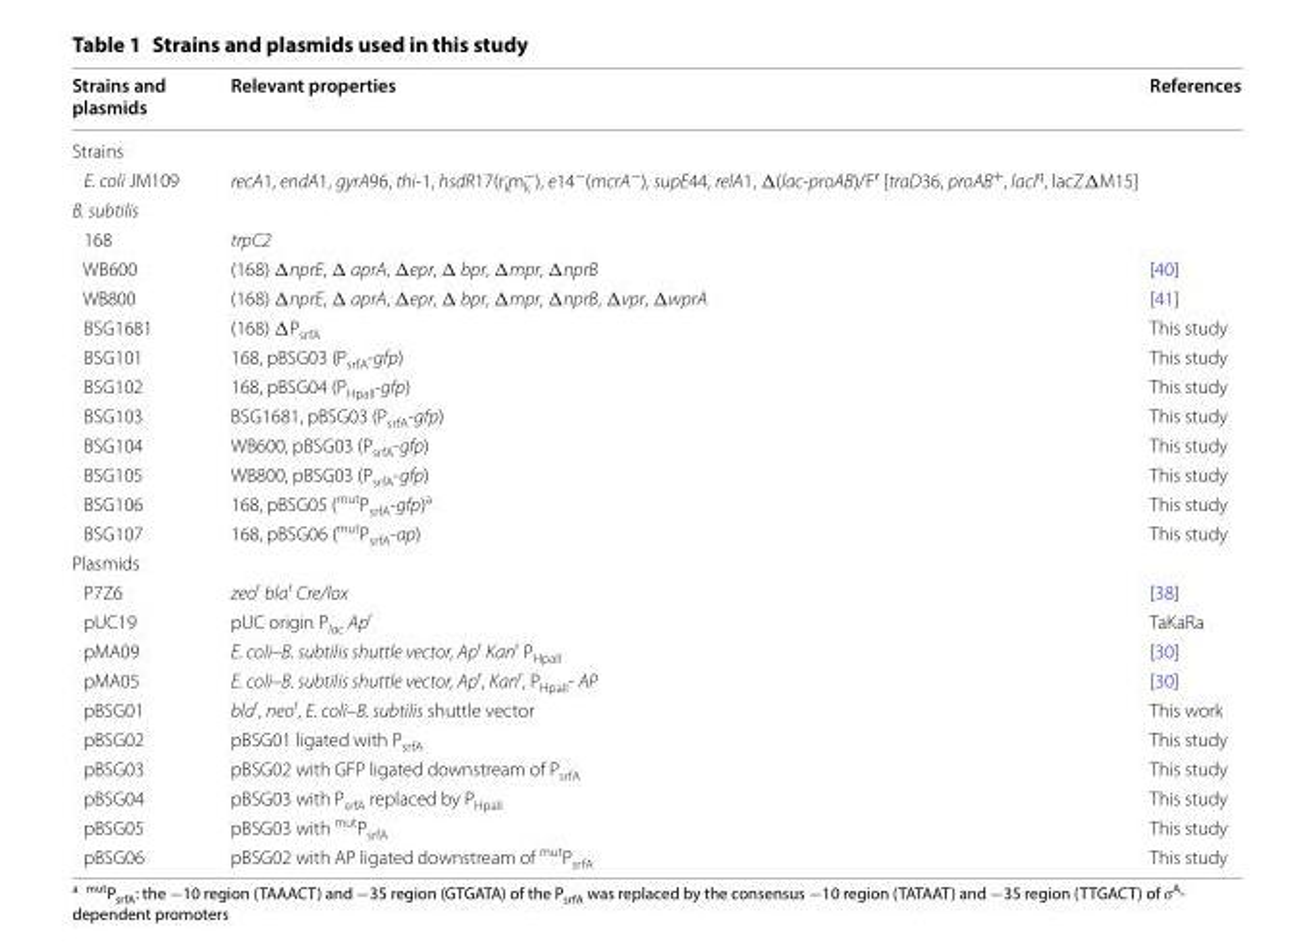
<table><thead><tr><td>Strains and plasmids</td><td>Relevant properties</td><td>References</td></tr></thead><tbody><tr><td colspan="3">Strains</td></tr><tr><td>E. coli JM109</td><td>recA1, endA1, gyrA96, thi-1, hsdR17(r<sub>k</sub> <sup>-</sup>m<sub>k</sub> <sup>−</sup>), e14<sup>−</sup>(mcrA<sup>−</sup>), supE44, relA1, Δ(lac-proAB)/F′ [traD36, proAB<sup>+</sup>, lacI<sup>q</sup>, lacZΔM15]</td><td></td></tr><tr><td colspan="3">B. subtilis</td></tr><tr><td>168</td><td>trpC2</td><td></td></tr><tr><td>WB600</td><td>(168) ΔnprE, Δ aprA, Δepr, Δ bpr, Δmpr, ΔnprB</td><td>[40]</td></tr><tr><td>WB800</td><td>(168) ΔnprE, Δ aprA, Δepr, Δ bpr, Δmpr, ΔnprB, Δvpr, ΔwprA</td><td>[41]</td></tr><tr><td>BSG1681</td><td>(168) ΔP<sub>srfA</sub></td><td>This study</td></tr><tr><td>BSG101</td><td>168, pBSG03 (P<sub>srfA</sub>-gfp)</td><td>This study</td></tr><tr><td>BSG102</td><td>168, pBSG04 (P<sub>HpaII</sub>-gfp)</td><td>This study</td></tr><tr><td>BSG103</td><td>BSG1681, pBSG03 (P<sub>srfA</sub>-gfp)</td><td>This study</td></tr><tr><td>BSG104</td><td>WB600, pBSG03 (P<sub>srfA</sub>-gfp)</td><td>This study</td></tr><tr><td>BSG105</td><td>WB800, pBSG03 (P<sub>srfA</sub>-gfp)</td><td>This study</td></tr><tr><td>BSG106</td><td>168, pBSG05 (<sup>mut</sup>P<sub>srfA</sub>-gfp)<sup>a</sup></td><td>This study</td></tr><tr><td>BSG107</td><td>168, pBSG06 (<sup>mut</sup>P<sub>srfA</sub>-ap)</td><td>This study</td></tr><tr><td colspan="3">Plasmids</td></tr><tr><td>P7Z6</td><td>zeo<sup>r</sup> bla<sup>r</sup> Cre/lox</td><td>[38]</td></tr><tr><td>pUC19</td><td>pUC origin P<sub>lac</sub> Ap<sup>r</sup></td><td>TaKaRa</td></tr><tr><td>pMA09</td><td>E. coli–B. subtilis shuttle vector, Ap<sup>r</sup> Kan<sup>r</sup> P<sub>HpaII</sub></td><td>[30]</td></tr><tr><td>pMA05</td><td>E. coli–B. subtilis shuttle vector, Ap<sup>r</sup>, Kan<sup>r</sup>, P<sub>HpaII</sub>- AP</td><td>[30]</td></tr><tr><td>pBSG01</td><td>bla<sup>r</sup>, neo<sup>r</sup>, E. coli–B. subtilis shuttle vector</td><td>This work</td></tr><tr><td>pBSG02</td><td>pBSG01 ligated with P<sub>srfA</sub></td><td>This study</td></tr><tr><td>pBSG03</td><td>pBSG02 with GFP ligated downstream of P<sub>srfA</sub></td><td>This study</td></tr><tr><td>pBSG04</td><td>pBSG03 with P<sub>srfA</sub> replaced by P<sub>HpaII</sub></td><td>This study</td></tr><tr><td>pBSG05</td><td>pBSG03 with <sup>mut</sup>P<sub>srfA</sub></td><td>This study</td></tr><tr><td>pBSG06</td><td>pBSG02 with AP ligated downstream of <sup>mut</sup>P<sub>srfA</sub></td><td>This study</td></tr></tbody></table>